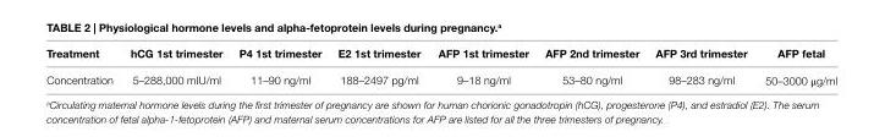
<table><thead><tr><td>Treatment</td><td>hcg 1st trimester</td><td>P4 1st trimester</td><td>e2 1st trimester</td><td>aFP 1st trimester</td><td>aFP 2nd trimester</td><td>aFP 3rd trimester</td><td>aFP fetal</td></tr></thead><tbody><tr><td>Concentration</td><td>5–288,000 mIU/ml</td><td>11–90 ng/ml</td><td>188–2497 pg/ml</td><td>9–18 ng/ml</td><td>53–80 ng/ml</td><td>98–283 ng/ml</td><td>50–3000 μg/ml</td></tr></tbody></table>